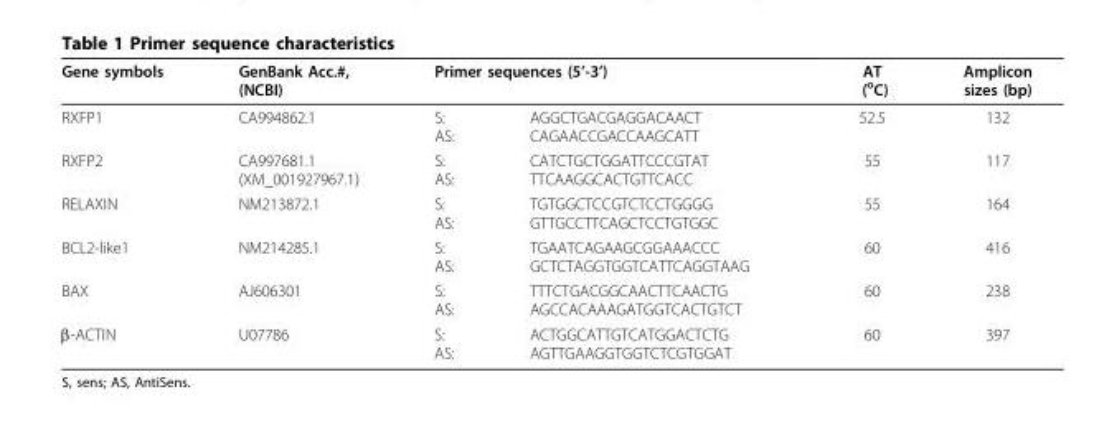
<table><thead><tr><td rowspan="2">Gene symbols RXFP1</td><td rowspan="2">GenBank Acc.#, (NCBI) CA994862.1</td><td colspan="2">Primer sequences (5’-3’)</td><td rowspan="2">AT (<sup>o</sup>C) 52.5</td><td rowspan="2">Amplicon sizes (bp) 132</td></tr><tr><td>S: AS:</td><td>AGGCTGACGAGGACAACT CAGAACCGACCAAGCATT</td></tr></thead><tbody><tr><td>RXFP2</td><td>CA997681.1 (XM_001927967.1)</td><td>S: AS:</td><td>CATCTGCTGGATTCCCGTAT TTCAAGGCACTGTTCACC</td><td>55</td><td>117</td></tr><tr><td>RELAXIN</td><td>NM213872.1</td><td>S: AS:</td><td>TGTGGCTCCGTCTCCTGGGG GTTGCCTTCAGCTCCTGTGGC</td><td>55</td><td>164</td></tr><tr><td>BCL2-like1</td><td>NM214285.1</td><td>S: AS:</td><td>TGAATCAGAAGCGGAAACCC GCTCTAGGTGGTCATTCAGGTAAG</td><td>60</td><td>416</td></tr><tr><td>BAX</td><td>AJ606301</td><td>S: AS:</td><td>TTTCTGACGGCAACTTCAACTG AGCCACAAAGATGGTCACTGTCT</td><td>60</td><td>238</td></tr><tr><td>β-ACTIN</td><td>U07786</td><td>S: AS:</td><td>ACTGGCATTGTCATGGACTCTG AGTTGAAGGTGGTCTCGTGGAT</td><td>60</td><td>397</td></tr></tbody></table>